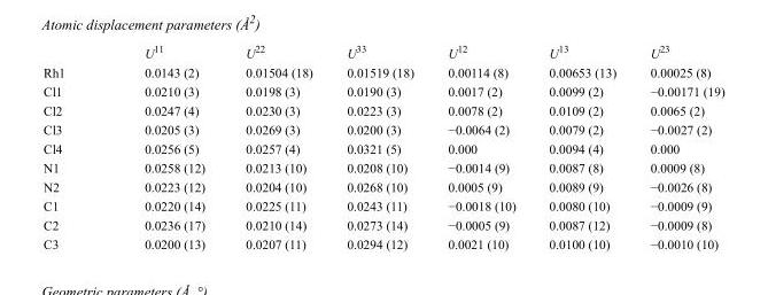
<table><thead><tr><td></td><td>U<sup>11</sup></td><td>U<sup>22</sup></td><td>U<sup>33</sup></td><td>U<sup>12</sup></td><td>U<sup>13</sup></td><td>U<sup>23</sup></td></tr></thead><tbody><tr><td>Rh1</td><td>0.0143 (2)</td><td>0.01504 (18)</td><td>0.01519 (18)</td><td>0.00114 (8)</td><td>0.00653 (13)</td><td>0.00025 (8)</td></tr><tr><td>Cl1</td><td>0.0210 (3)</td><td>0.0198 (3)</td><td>0.0190 (3)</td><td>0.0017 (2)</td><td>0.0099 (2)</td><td>−0.00171 (19)</td></tr><tr><td>Cl2</td><td>0.0247 (4)</td><td>0.0230 (3)</td><td>0.0223 (3)</td><td>0.0078 (2)</td><td>0.0109 (2)</td><td>0.0065 (2)</td></tr><tr><td>Cl3</td><td>0.0205 (3)</td><td>0.0269 (3)</td><td>0.0200 (3)</td><td>−0.0064 (2)</td><td>0.0079 (2)</td><td>−0.0027 (2)</td></tr><tr><td>Cl4</td><td>0.0256 (5)</td><td>0.0257 (4)</td><td>0.0321 (5)</td><td>0.000</td><td>0.0094 (4)</td><td>0.000</td></tr><tr><td>N1</td><td>0.0258 (12)</td><td>0.0213 (10)</td><td>0.0208 (10)</td><td>−0.0014 (9)</td><td>0.0087 (8)</td><td>0.0009 (8)</td></tr><tr><td>N2</td><td>0.0223 (12)</td><td>0.0204 (10)</td><td>0.0268 (10)</td><td>0.0005 (9)</td><td>0.0089 (9)</td><td>−0.0026 (8)</td></tr><tr><td>C1</td><td>0.0220 (14)</td><td>0.0225 (11)</td><td>0.0243 (11)</td><td>−0.0018 (10)</td><td>0.0080 (10)</td><td>−0.0009 (9)</td></tr><tr><td>C2</td><td>0.0236 (17)</td><td>0.0210 (14)</td><td>0.0273 (14)</td><td>−0.0005 (9)</td><td>0.0087 (12)</td><td>−0.0009 (8)</td></tr><tr><td>C3</td><td>0.0200 (13)</td><td>0.0207 (11)</td><td>0.0294 (12)</td><td>0.0021 (10)</td><td>0.0100 (10)</td><td>−0.0010 (10)</td></tr></tbody></table>